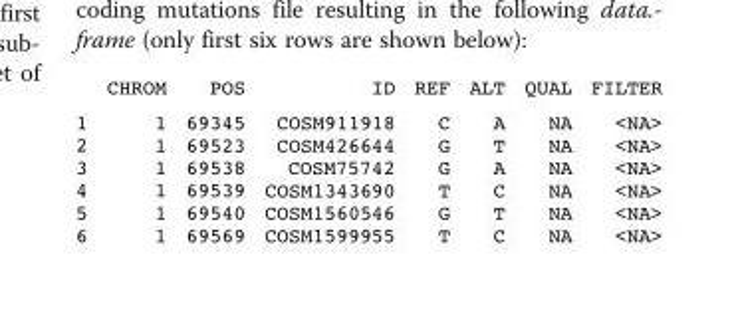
<table><thead><tr><td></td><td>CHROM</td><td>POS</td><td>ID</td><td>REF</td><td>ALT</td><td>QUAL</td><td>FILTER</td></tr></thead><tbody><tr><td>1 2 3 4 5 6</td><td>1 1 1 1 1 1</td><td>69345 69523 69538 69539 69540 69569</td><td>COSM911918 COSM426644 COSM75742 COSM1343690 COSM1560546 COSM1599955</td><td>C G G T G T</td><td>A T A C T C</td><td>NA NA NA NA NA NA</td><td>&lt;NA&gt; &lt;NA&gt; &lt;NA&gt; &lt;NA&gt; &lt;NA&gt; &lt;NA&gt;</td></tr></tbody></table>